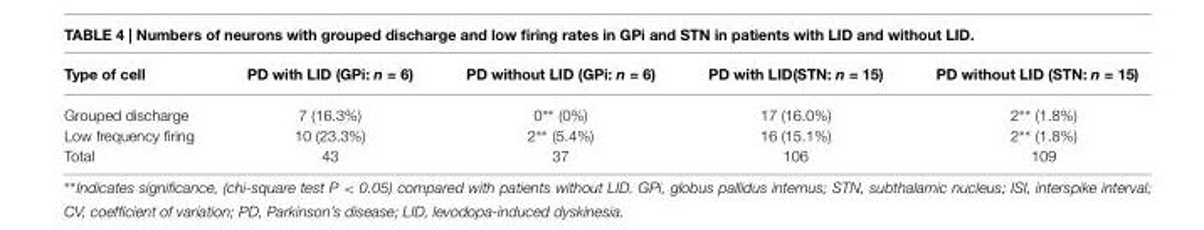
<table><thead><tr><td>Type of cell</td><td>PD with LID (GPi: n = 6)</td><td>PD without LID (GPi: n = 6)</td><td>PD with LID(STN: n = 15)</td><td>PD without LID (STN: n = 15)</td></tr></thead><tbody><tr><td>Grouped discharge</td><td>7 (16.3%)</td><td>0∗∗ (0%)</td><td>17 (16.0%)</td><td>2∗∗ (1.8%)</td></tr><tr><td>Low frequency firing</td><td>10 (23.3%)</td><td>2∗∗ (5.4%)</td><td>16 (15.1%)</td><td>2∗∗ (1.8%)</td></tr><tr><td>Total</td><td>43</td><td>37</td><td>106</td><td>109</td></tr></tbody></table>